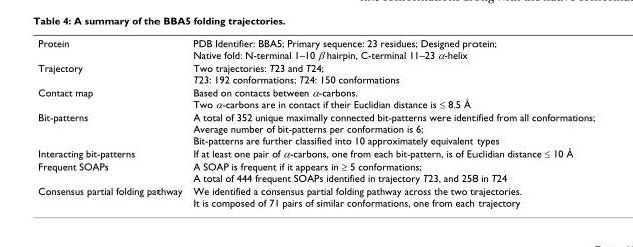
<table><tbody><tr><td>Protein</td><td>PDB Identifier: BBA5; Primary sequence: 23 residues; Designed protein; Native fold: N-terminal 1–10 β hairpin, C-terminal 11–23 α-helix</td></tr><tr><td>Trajectory</td><td>Two trajectories: T23 and T24; T23: 192 conformations; T24: 150 conformations</td></tr><tr><td>Contact map</td><td>Based on contacts between α-carbons. Two α-carbons are in contact if their Euclidian distance is ≤ 8.5 Å</td></tr><tr><td>Bit-patterns</td><td>A total of 352 unique maximally connected bit-patterns were identified from all conformations; Average number of bit-patterns per conformation is 6; Bit-patterns are further classified into 10 approximately equivalent types</td></tr><tr><td>Interacting bit-patterns</td><td>If at least one pair of α-carbons, one from each bit-pattern, is of Euclidian distance ≤ 10 Å</td></tr><tr><td>Frequent SOAPs</td><td>A SOAP is frequent if it appears in ≥ 5 conformations; A total of 444 frequent SOAPs identified in trajectory T23, and 258 in T24</td></tr><tr><td>Consensus partial folding pathway</td><td>We identified a consensus partial folding pathway across the two trajectories. It is composed of 71 pairs of similar conformations, one from each trajectory</td></tr></tbody></table>